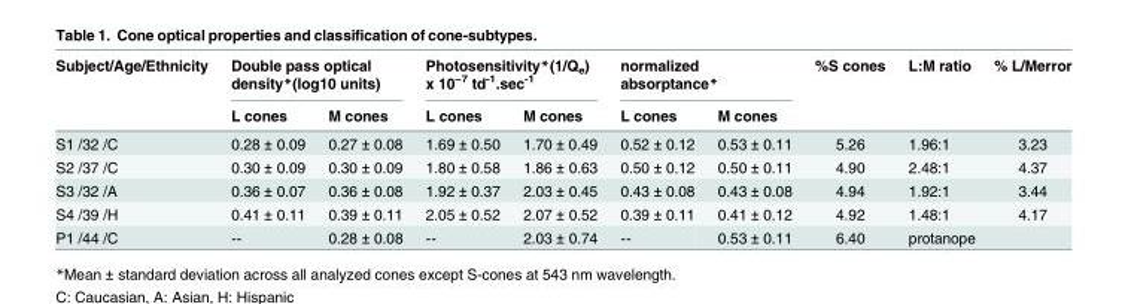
<table><thead><tr><td rowspan="2">Subject/Age/Ethnicity</td><td colspan="2">Double pass optical density*(log10 units)</td><td colspan="2">Photosensitivity*(1/Q<sub>e</sub>) x 10<sup>−7</sup> td<sup>-1</sup>.sec<sup>-1</sup></td><td colspan="2">normalized absorptance*</td><td rowspan="2">%S cones</td><td rowspan="2">L:M ratio</td><td rowspan="2">% L/Merror</td></tr><tr><td>L cones</td><td>M cones</td><td>L cones</td><td>M cones</td><td>L cones</td><td>M cones</td></tr></thead><tbody><tr><td>S1 /32 /C</td><td>0.28 ± 0.09</td><td>0.27 ± 0.08</td><td>1.69 ± 0.50</td><td>1.70 ± 0.49</td><td>0.52 ± 0.12</td><td>0.53 ± 0.11</td><td>5.26</td><td>1.96:1</td><td>3.23</td></tr><tr><td>S2 /37 /C</td><td>0.30 ± 0.09</td><td>0.30 ± 0.09</td><td>1.80 ± 0.58</td><td>1.86 ± 0.63</td><td>0.50 ± 0.12</td><td>0.50 ± 0.11</td><td>4.90</td><td>2.48:1</td><td>4.37</td></tr><tr><td>S3 /32 /A</td><td>0.36 ± 0.07</td><td>0.36 ± 0.08</td><td>1.92 ± 0.37</td><td>2.03 ± 0.45</td><td>0.43 ± 0.08</td><td>0.43 ± 0.08</td><td>4.94</td><td>1.92:1</td><td>3.44</td></tr><tr><td>S4 /39 /H</td><td>0.41 ± 0.11</td><td>0.39 ± 0.11</td><td>2.05 ± 0.52</td><td>2.07 ± 0.52</td><td>0.39 ± 0.11</td><td>0.41 ± 0.12</td><td>4.92</td><td>1.48:1</td><td>4.17</td></tr><tr><td>P1 /44 /C</td><td>--</td><td>0.28 ± 0.08</td><td>--</td><td>2.03 ± 0.74</td><td>--</td><td>0.53 ± 0.11</td><td>6.40</td><td colspan="2">protanope</td></tr></tbody></table>